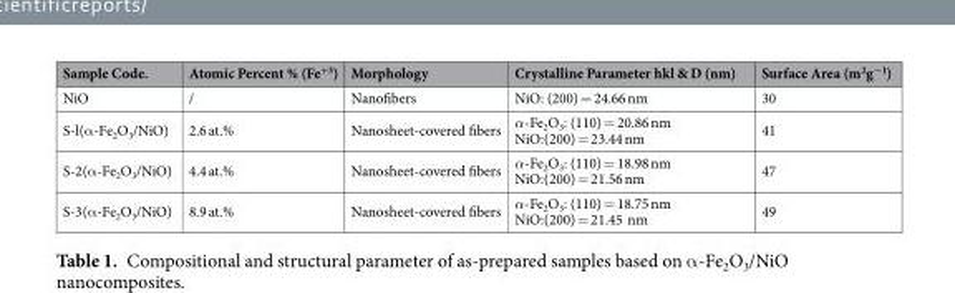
<table><thead><tr><td>Sample Code.</td><td>Atomic Percent % (Fe<sup>+3</sup>)</td><td>Morphology</td><td>Crystalline Parameter hkl &amp; D (nm)</td><td>Surface Area (m<sup>2</sup>g<sup>−1</sup>)</td></tr></thead><tbody><tr><td>NiO</td><td>/</td><td>Nanofibers</td><td>NiO: (200) = 24.66 nm</td><td>30</td></tr><tr><td>S-l(α-Fe<sub>2</sub>O<sub>3</sub>/NiO)</td><td>2.6 at.%</td><td>Nanosheet-covered fibers</td><td>α-Fe<sub>2</sub>O<sub>3</sub>: (110) = 20.86 nm NiO:(200) = 23.44 nm</td><td>41</td></tr><tr><td>S-2(α-Fe<sub>2</sub>O<sub>3</sub>/NiO)</td><td>4.4 at.%</td><td>Nanosheet-covered fibers</td><td>α-Fe<sub>2</sub>O<sub>3</sub>: (110) = 18.98 nm NiO:(200) = 21.56 nm</td><td>47</td></tr><tr><td>S-3(α-Fe<sub>2</sub>O<sub>3</sub>/NiO)</td><td>8.9 at.%</td><td>Nanosheet-covered fibers</td><td>α-Fe<sub>2</sub>O<sub>3</sub>: (110) = 18.75 nm NiO:(200) = 21.45 nm</td><td>49</td></tr></tbody></table>